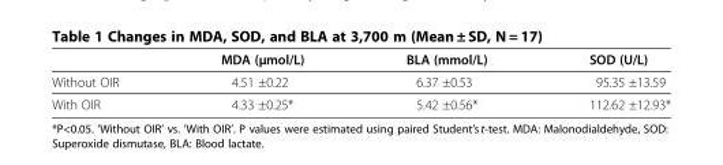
<table><thead><tr><td></td><td>MDA (μmol/L)</td><td>BLA (mmol/L)</td><td>SOD (U/L)</td></tr></thead><tbody><tr><td>Without OIR</td><td>4.51 ±0.22</td><td>6.37 ±0.53</td><td>95.35 ±13.59</td></tr><tr><td>With OIR</td><td>4.33 ±0.25*</td><td>5.42 ±0.56*</td><td>112.62 ±12.93*</td></tr></tbody></table>